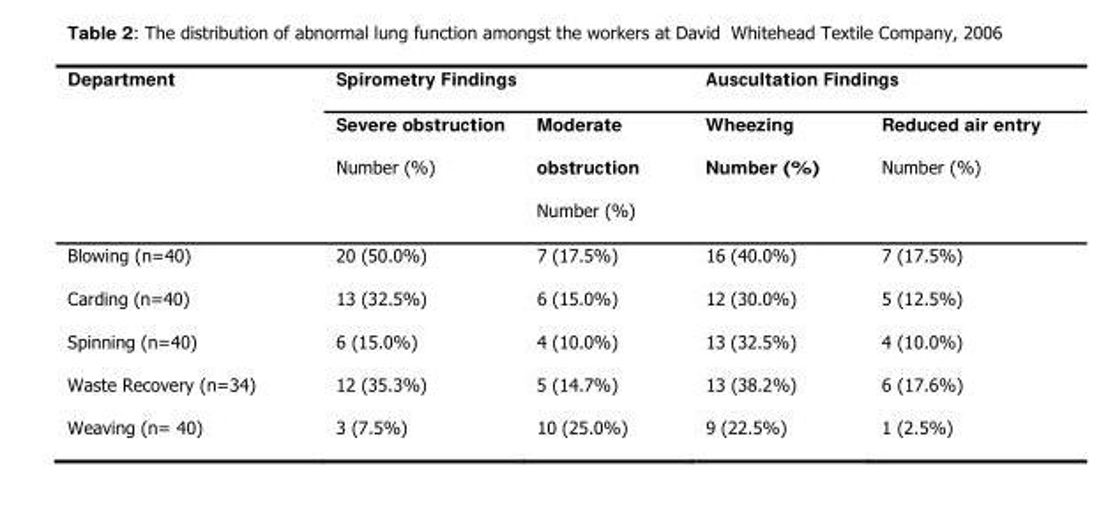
<table><thead><tr><td rowspan="2">Department</td><td colspan="2">Spirometry Findings</td><td colspan="2">Auscultation Findings</td></tr><tr><td>Severe obstruction Number (%)</td><td>Moderate obstruction Number (%)</td><td>Wheezing Number (%)</td><td>Reduced air entry Number (%)</td></tr></thead><tbody><tr><td>Blowing (n=40)</td><td>20 (50.0%)</td><td>7 (17.5%)</td><td>16 (40.0%)</td><td>7 (17.5%)</td></tr><tr><td>Carding (n=40)</td><td>13 (32.5%)</td><td>6 (15.0%)</td><td>12 (30.0%)</td><td>5 (12.5%)</td></tr><tr><td>Spinning (n=40)</td><td>6 (15.0%)</td><td>4 (10.0%)</td><td>13 (32.5%)</td><td>4 (10.0%)</td></tr><tr><td>Waste Recovery (n=34)</td><td>12 (35.3%)</td><td>5 (14.7%)</td><td>13 (38.2%)</td><td>6 (17.6%)</td></tr><tr><td>Weaving (n= 40)</td><td>3 (7.5%)</td><td>10 (25.0%)</td><td>9 (22.5%)</td><td>1 (2.5%)</td></tr></tbody></table>